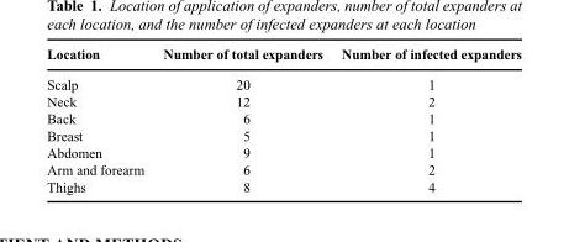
<table><thead><tr><td>Location</td><td>Number of total expanders</td><td>Number of infected expanders</td></tr></thead><tbody><tr><td>Scalp</td><td>20</td><td>1</td></tr><tr><td>Neck</td><td>12</td><td>2</td></tr><tr><td>Back</td><td>6</td><td>1</td></tr><tr><td>Breast</td><td>5</td><td>1</td></tr><tr><td>Abdomen</td><td>9</td><td>1</td></tr><tr><td>Arm and forearm</td><td>6</td><td>2</td></tr><tr><td>Thighs</td><td>8</td><td>4</td></tr></tbody></table>